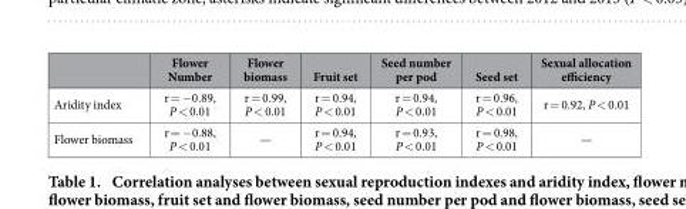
<table><thead><tr><td></td><td>Flower Number</td><td>Flower biomass</td><td>Fruit set</td><td>Seed number per pod</td><td>Seed set</td><td>Sexual allocation efficiency</td></tr></thead><tbody><tr><td>Aridity index</td><td>r = − 0.89, P &lt; 0.01</td><td>r = 0.99, P &lt; 0.01</td><td>r = 0.94, P &lt; 0.01</td><td>r = 0.94, P &lt; 0.01</td><td>r = 0.96, P &lt; 0.01</td><td>r = 0.92, P &lt; 0.01</td></tr><tr><td>Flower biomass</td><td>r = − 0.88, P &lt; 0.01</td><td>—</td><td>r = 0.94, P &lt; 0.01</td><td>r = 0.93, P &lt; 0.01</td><td>r = 0.98, P &lt; 0.01</td><td>—</td></tr></tbody></table>